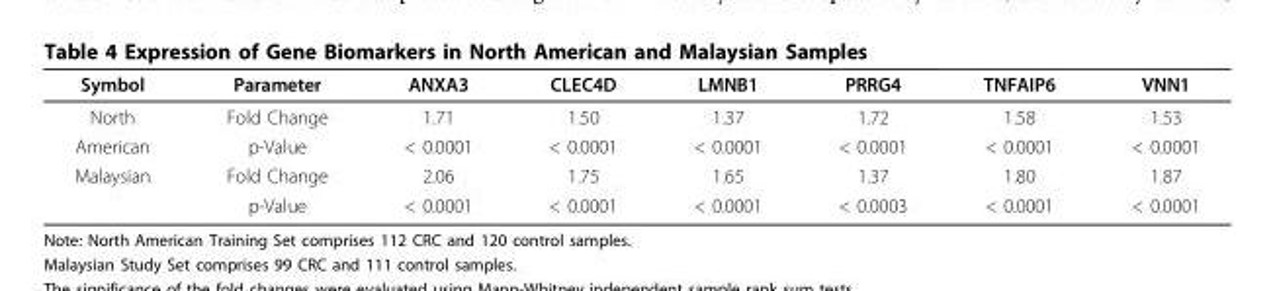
<table><thead><tr><td>Symbol</td><td>Parameter</td><td>ANXA3</td><td>CLEC4D</td><td>LMNB1</td><td>PRRG4</td><td>TNFAIP6</td><td>VNN1</td></tr></thead><tbody><tr><td>North</td><td>Fold Change</td><td>1.71</td><td>1.50</td><td>1.37</td><td>1.72</td><td>1.58</td><td>1.53</td></tr><tr><td>American</td><td>p-Value</td><td>&lt; 0.0001</td><td>&lt; 0.0001</td><td>&lt; 0.0001</td><td>&lt; 0.0001</td><td>&lt; 0.0001</td><td>&lt; 0.0001</td></tr><tr><td rowspan="2">Malaysian</td><td>Fold Change</td><td>2.06</td><td>1.75</td><td>1.65</td><td>1.37</td><td>1.80</td><td>1.87</td></tr><tr><td>p-Value</td><td>&lt; 0.0001</td><td>&lt; 0.0001</td><td>&lt; 0.0001</td><td>&lt; 0.0003</td><td>&lt; 0.0001</td><td>&lt; 0.0001</td></tr></tbody></table>